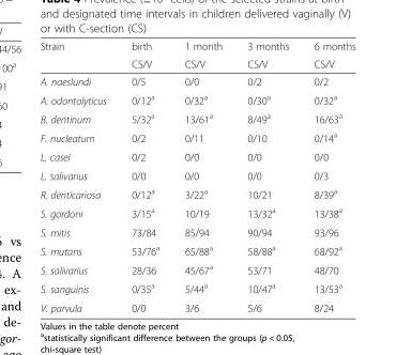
<table><thead><tr><td rowspan="2">Strain</td><td rowspan="2">birth CS/V</td><td rowspan="2">1 month CS/V</td><td rowspan="2">3 months CS/V</td><td rowspan="2">6 months CS/V</td></tr><tr></tr></thead><tbody><tr><td>A. naeslundi</td><td>0/5</td><td>0/0</td><td>0/2</td><td>0/2</td></tr><tr><td>A. odontolyticus</td><td>0/12<sup>a</sup></td><td>0/32<sup>a</sup></td><td>0/30<sup>a</sup></td><td>0/32<sup>a</sup></td></tr><tr><td>B. dentinum</td><td>5/32<sup>a</sup></td><td>13/61<sup>a</sup></td><td>8/49<sup>a</sup></td><td>16/63<sup>a</sup></td></tr><tr><td>F. nucleatum</td><td>0/2</td><td>0/11</td><td>0/10</td><td>0/14<sup>a</sup></td></tr><tr><td>L. casei</td><td>0/2</td><td>0/0</td><td>0/0</td><td>0/0</td></tr><tr><td>L. salivarius</td><td>0/0</td><td>0/0</td><td>0/0</td><td>0/3</td></tr><tr><td>R. denticariosa</td><td>0/12<sup>a</sup></td><td>3/22<sup>a</sup></td><td>10/21</td><td>8/39<sup>a</sup></td></tr><tr><td>S. gordoni</td><td>3/15<sup>a</sup></td><td>10/19</td><td>13/32<sup>a</sup></td><td>13/38<sup>a</sup></td></tr><tr><td>S. mitis</td><td>73/84</td><td>85/94</td><td>90/94</td><td>93/96</td></tr><tr><td>S. mutans</td><td>53/76<sup>a</sup></td><td>65/88<sup>a</sup></td><td>58/88<sup>a</sup></td><td>68/92<sup>a</sup></td></tr><tr><td>S. salivarius</td><td>28/36</td><td>45/67<sup>a</sup></td><td>53/71</td><td>48/70</td></tr><tr><td>S. sanguinis</td><td>0/35<sup>a</sup></td><td>5/44<sup>a</sup></td><td>10/47<sup>a</sup></td><td>13/53<sup>a</sup></td></tr><tr><td>V. parvula</td><td>0/0</td><td>3/6</td><td>5/6</td><td>8/24</td></tr></tbody></table>